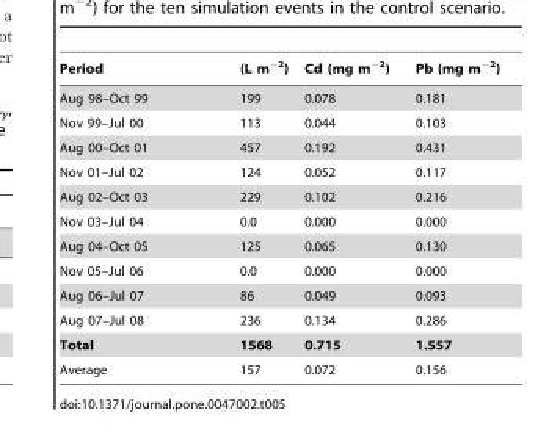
<table><thead><tr><td>Period</td><td>(L m<sup>−2</sup>)</td><td>Cd (mg m<sup>−2</sup>)</td><td>Pb (mg m<sup>−2</sup>)</td></tr></thead><tbody><tr><td>Aug 98–Oct 99</td><td>199</td><td>0.078</td><td>0.181</td></tr><tr><td>Nov 99–Jul 00</td><td>113</td><td>0.044</td><td>0.103</td></tr><tr><td>Aug 00–Oct 01</td><td>457</td><td>0.192</td><td>0.431</td></tr><tr><td>Nov 01–Jul 02</td><td>124</td><td>0.052</td><td>0.117</td></tr><tr><td>Aug 02–Oct 03</td><td>229</td><td>0.102</td><td>0.216</td></tr><tr><td>Nov 03–Jul 04</td><td>0.0</td><td>0.000</td><td>0.000</td></tr><tr><td>Aug 04–Oct 05</td><td>125</td><td>0.065</td><td>0.130</td></tr><tr><td>Nov 05–Jul 06</td><td>0.0</td><td>0.000</td><td>0.000</td></tr><tr><td>Aug 06–Jul 07</td><td>86</td><td>0.049</td><td>0.093</td></tr><tr><td>Aug 07–Jul 08</td><td>236</td><td>0.134</td><td>0.286</td></tr><tr><td>Total</td><td>1568</td><td>0.715</td><td>1.557</td></tr><tr><td>Average</td><td>157</td><td>0.072</td><td>0.156</td></tr></tbody></table>